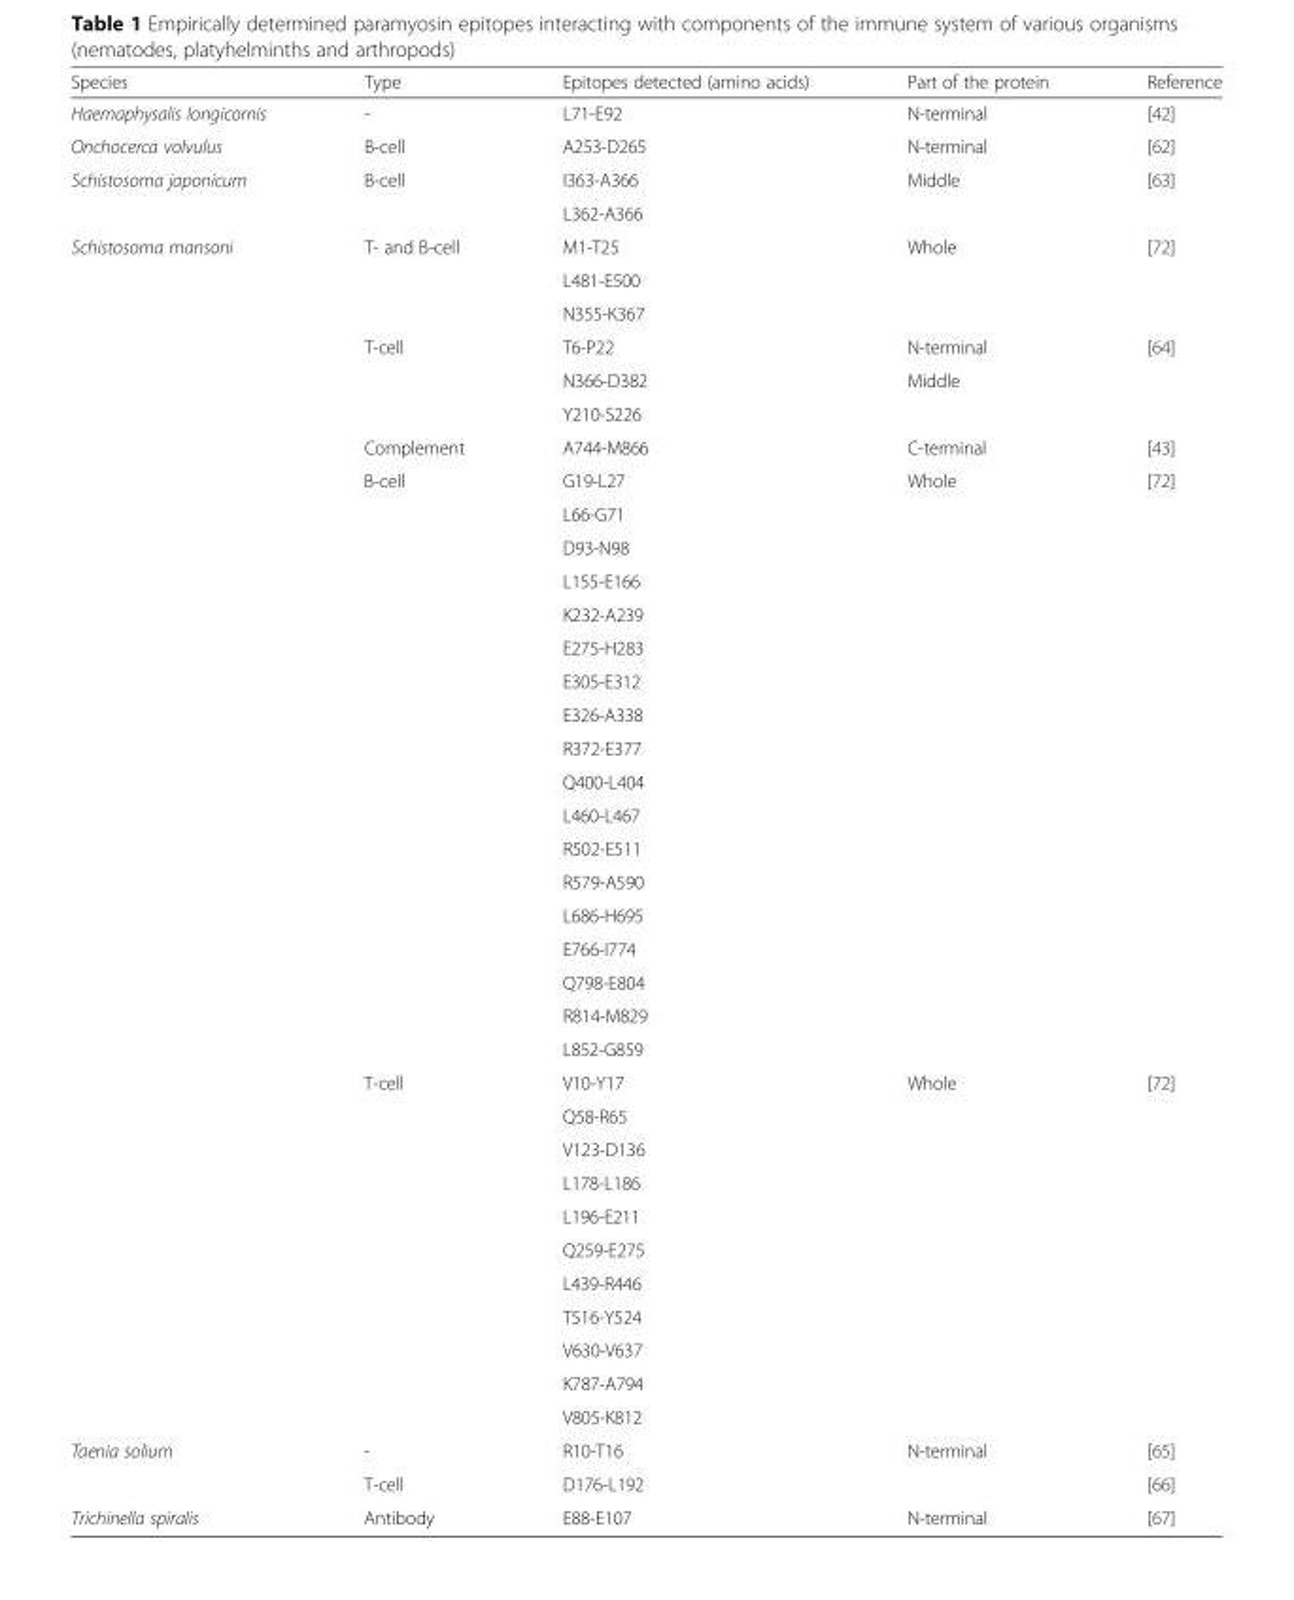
<table><thead><tr><td>Species</td><td>Type</td><td>Epitopes detected (amino acids)</td><td>Part of the protein</td><td>Reference</td></tr></thead><tbody><tr><td>Haemaphysalis longicornis</td><td>-</td><td>L71-E92</td><td>N-terminal</td><td>[42]</td></tr><tr><td>Onchocerca volvulus</td><td>B-cell</td><td>A253-D265</td><td>N-terminal</td><td>[62]</td></tr><tr><td rowspan="2">Schistosoma japonicum</td><td rowspan="2">B-cell</td><td>I363-A366</td><td rowspan="2">Middle</td><td rowspan="2">[63]</td></tr><tr><td>L362-A366</td></tr><tr><td rowspan="36">Schistosoma mansoni</td><td rowspan="3">T- and B-cell</td><td>M1-T25</td><td rowspan="3">Whole</td><td rowspan="3">[72]</td></tr><tr><td>L481-E500</td></tr><tr><td>N355-K367</td></tr><tr><td rowspan="3">T-cell</td><td>T6-P22</td><td>N-terminal</td><td rowspan="3">[64]</td></tr><tr><td>N366-D382</td><td rowspan="2">Middle</td></tr><tr><td>Y210-S226</td></tr><tr><td>Complement</td><td>A744-M866</td><td>C-terminal</td><td>[43]</td></tr><tr><td rowspan="18">B-cell</td><td>G19-L27</td><td rowspan="18">Whole</td><td rowspan="18">[72]</td></tr><tr><td>L66-G71</td></tr><tr><td>D93-N98</td></tr><tr><td>L155-E166</td></tr><tr><td>K232-A239</td></tr><tr><td>E275-H283</td></tr><tr><td>E305-E312</td></tr><tr><td>E326-A338</td></tr><tr><td>R372-E377</td></tr><tr><td>Q400-L404</td></tr><tr><td>L460-L467</td></tr><tr><td>R502-E511</td></tr><tr><td>R579-A590</td></tr><tr><td>L686-H695</td></tr><tr><td>E766-I774</td></tr><tr><td>Q798-E804</td></tr><tr><td>R814-M829</td></tr><tr><td>L852-G859</td></tr><tr><td rowspan="11">T-cell</td><td>V10-Y17</td><td rowspan="11">Whole</td><td rowspan="11">[72]</td></tr><tr><td>Q58-R65</td></tr><tr><td>V123-D136</td></tr><tr><td>L178-L186</td></tr><tr><td>L196-E211</td></tr><tr><td>Q259-E275</td></tr><tr><td>L439-R446</td></tr><tr><td>T516-Y524</td></tr><tr><td>V630-V637</td></tr><tr><td>K787-A794</td></tr><tr><td>V805-K812</td></tr><tr><td rowspan="2">Taenia solium</td><td>-</td><td>R10-T16</td><td rowspan="2">N-terminal</td><td>[65]</td></tr><tr><td>T-cell</td><td>D176-L192</td><td>[66]</td></tr><tr><td>Trichinella spiralis</td><td>Antibody</td><td>E88-E107</td><td>N-terminal</td><td>[67]</td></tr></tbody></table>